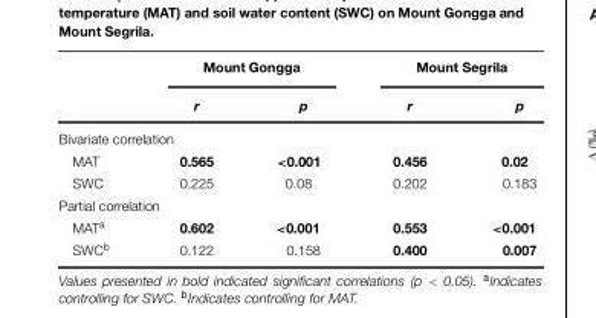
<table><thead><tr><td rowspan="2"></td><td colspan="2">Mount Gongga</td><td colspan="2">Mount Segrila</td></tr><tr><td>r</td><td>p</td><td>r</td><td>p</td></tr></thead><tbody><tr><td colspan="5">Bivariate correlation</td></tr><tr><td>MAT</td><td>0.565</td><td>&lt;0.001</td><td>0.456</td><td>0.02</td></tr><tr><td>SWC</td><td>0.225</td><td>0.08</td><td>0.202</td><td>0.183</td></tr><tr><td colspan="5">Partial correlation</td></tr><tr><td>MAT<sup>a</sup></td><td>0.602</td><td>&lt;0.001</td><td>0.553</td><td>&lt;0.001</td></tr><tr><td>SWC<sup>b</sup></td><td>0.122</td><td>0.158</td><td>0.400</td><td>0.007</td></tr></tbody></table>